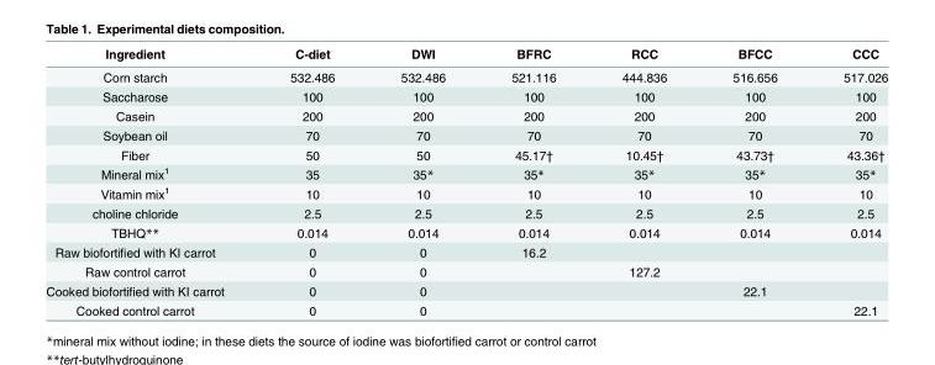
<table><thead><tr><td>Ingredient</td><td>C-diet</td><td>DWI</td><td>BFRC</td><td>RCC</td><td>BFCC</td><td>CCC</td></tr></thead><tbody><tr><td>Corn starch</td><td>532.486</td><td>532.486</td><td>521.116</td><td>444.836</td><td>516.656</td><td>517.026</td></tr><tr><td>Saccharose</td><td>100</td><td>100</td><td>100</td><td>100</td><td>100</td><td>100</td></tr><tr><td>Casein</td><td>200</td><td>200</td><td>200</td><td>200</td><td>200</td><td>200</td></tr><tr><td>Soybean oil</td><td>70</td><td>70</td><td>70</td><td>70</td><td>70</td><td>70</td></tr><tr><td>Fiber</td><td>50</td><td>50</td><td>45.17†</td><td>10.45†</td><td>43.73†</td><td>43.36†</td></tr><tr><td>Mineral mix<sup>1</sup></td><td>35</td><td>35*</td><td>35*</td><td>35*</td><td>35*</td><td>35*</td></tr><tr><td>Vitamin mix<sup>1</sup></td><td>10</td><td>10</td><td>10</td><td>10</td><td>10</td><td>10</td></tr><tr><td>choline chloride</td><td>2.5</td><td>2.5</td><td>2.5</td><td>2.5</td><td>2.5</td><td>2.5</td></tr><tr><td>TBHQ**</td><td>0.014</td><td>0.014</td><td>0.014</td><td>0.014</td><td>0.014</td><td>0.014</td></tr><tr><td>Raw biofortified with KI carrot</td><td>0</td><td>0</td><td>16.2</td><td></td><td></td><td></td></tr><tr><td>Raw control carrot</td><td>0</td><td>0</td><td></td><td>127.2</td><td></td><td></td></tr><tr><td>Cooked biofortified with KI carrot</td><td>0</td><td>0</td><td></td><td></td><td>22.1</td><td></td></tr><tr><td>Cooked control carrot</td><td>0</td><td>0</td><td></td><td></td><td></td><td>22.1</td></tr></tbody></table>